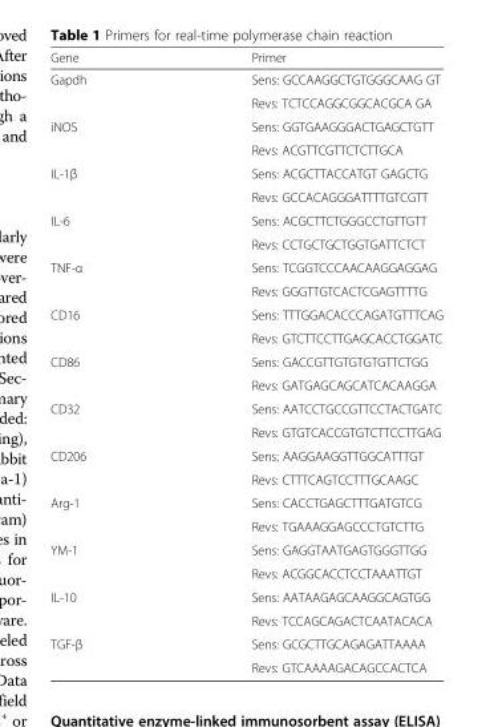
<table><thead><tr><td>Gene</td><td>Primer</td></tr></thead><tbody><tr><td rowspan="2">Gapdh</td><td>Sens: GCCAAGGCTGTGGGCAAG GT</td></tr><tr><td>Revs: TCTCCAGGCGGCACGCA GA</td></tr><tr><td rowspan="2">iNOS</td><td>Sens: GGTGAAGGGACTGAGCTGTT</td></tr><tr><td>Revs: ACGTTCGTTCTCTTGCA</td></tr><tr><td rowspan="2">IL-1β</td><td>Sens: ACGCTTACCATGT GAGCTG</td></tr><tr><td>Revs: GCCACAGGGATTTTGTCGTT</td></tr><tr><td rowspan="2">IL-6</td><td>Sens: ACGCTTCTGGGCCTGTTGTT</td></tr><tr><td>Revs: CCTGCTGCTGGTGATTCTCT</td></tr><tr><td rowspan="2">TNF-α</td><td>Sens: TCGGTCCCAACAAGGAGGAG</td></tr><tr><td>Revs: GGGTTGTCACTCGAGTTTTG</td></tr><tr><td rowspan="2">CD16</td><td>Sens: TTTGGACACCCAGATGTTTCAG</td></tr><tr><td>Revs: GTCTTCCTTGAGCACCTGGATC</td></tr><tr><td rowspan="2">CD86</td><td>Sens: GACCGTTGTGTGTGTTCTGG</td></tr><tr><td>Revs: GATGAGCAGCATCACAAGGA</td></tr><tr><td rowspan="2">CD32</td><td>Sens: AATCCTGCCGTTCCTACTGATC</td></tr><tr><td>Revs: GTGTCACCGTGTCTTCCTTGAG</td></tr><tr><td rowspan="2">CD206</td><td>Sens: AAGGAAGGTTGGCATTTGT</td></tr><tr><td>Revs: CTTTCAGTCCTTTGCAAGC</td></tr><tr><td rowspan="2">Arg-1</td><td>Sens: CACCTGAGCTTTGATGTCG</td></tr><tr><td>Revs: TGAAAGGAGCCCTGTCTTG</td></tr><tr><td rowspan="2">YM-1</td><td>Sens: GAGGTAATGAGTGGGTTGG</td></tr><tr><td>Revs: ACGGCACCTCCTAAATTGT</td></tr><tr><td rowspan="2">IL-10</td><td>Sens: AATAAGAGCAAGGCAGTGG</td></tr><tr><td>Revs: TCCAGCAGACTCAATACACA</td></tr><tr><td rowspan="2">TGF-β</td><td>Sens: GCGCTTGCAGAGATTAAAA</td></tr><tr><td>Revs: GTCAAAAGACAGCCACTCA</td></tr></tbody></table>